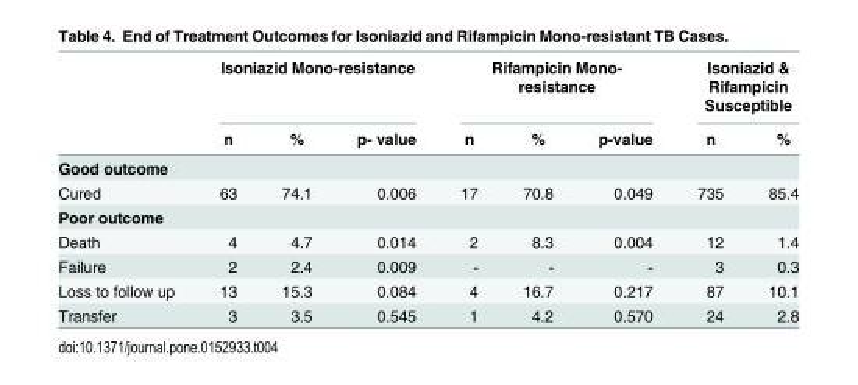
<table><thead><tr><td rowspan="2"></td><td colspan="3">Isoniazid Mono-resistance</td><td colspan="3">Rifampicin Mono- resistance</td><td colspan="2">Isoniazid &amp; Rifampicin Susceptible</td></tr><tr><td>n</td><td>%</td><td>p- value</td><td>n</td><td>%</td><td>p-value</td><td>n</td><td>%</td></tr></thead><tbody><tr><td colspan="9">Good outcome</td></tr><tr><td>Cured</td><td>63</td><td>74.1</td><td>0.006</td><td>17</td><td>70.8</td><td>0.049</td><td>735</td><td>85.4</td></tr><tr><td colspan="9">Poor outcome</td></tr><tr><td>Death</td><td>4</td><td>4.7</td><td>0.014</td><td>2</td><td>8.3</td><td>0.004</td><td>12</td><td>1.4</td></tr><tr><td>Failure</td><td>2</td><td>2.4</td><td>0.009</td><td>-</td><td>-</td><td>-</td><td>3</td><td>0.3</td></tr><tr><td>Loss to follow up</td><td>13</td><td>15.3</td><td>0.084</td><td>4</td><td>16.7</td><td>0.217</td><td>87</td><td>10.1</td></tr><tr><td>Transfer</td><td>3</td><td>3.5</td><td>0.545</td><td>1</td><td>4.2</td><td>0.570</td><td>24</td><td>2.8</td></tr></tbody></table>